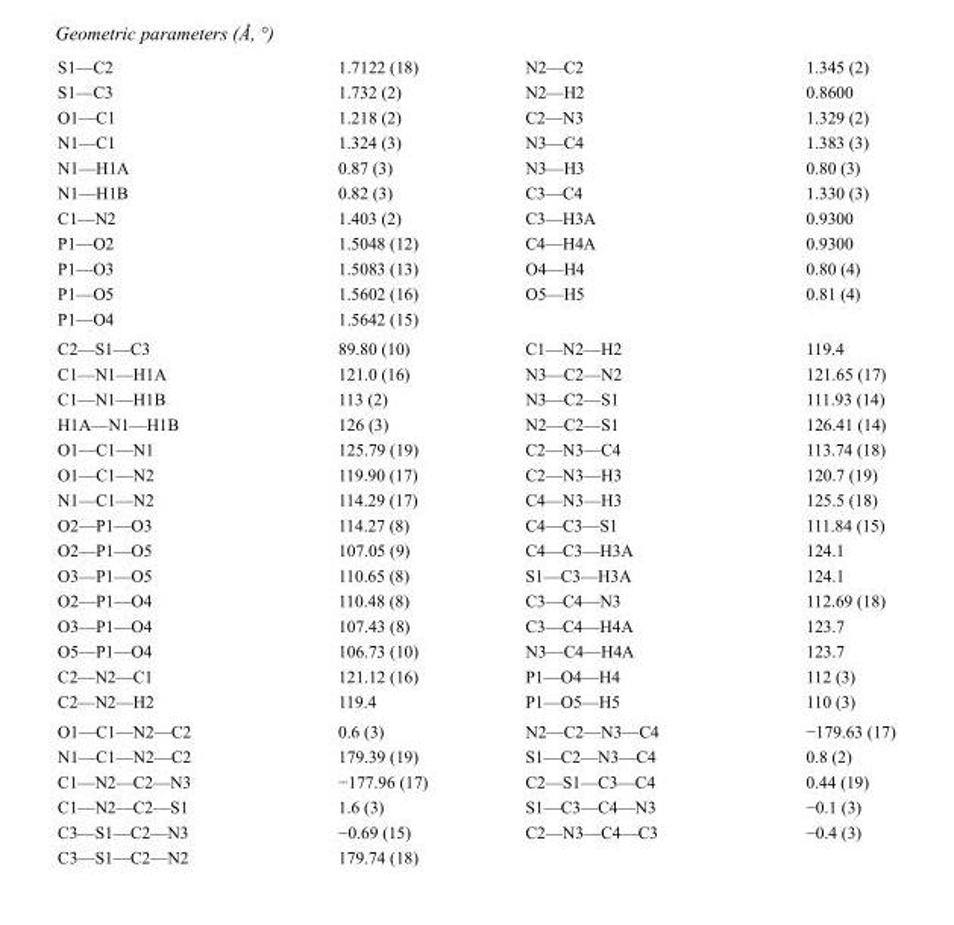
<table><tbody><tr><td>S1—C2</td><td>1.7122 (18)</td><td>N2—C2</td><td>1.345 (2)</td></tr><tr><td>S1—C3</td><td>1.732 (2)</td><td>N2—H2</td><td>0.8600</td></tr><tr><td>O1—C1</td><td>1.218 (2)</td><td>C2—N3</td><td>1.329 (2)</td></tr><tr><td>N1—C1</td><td>1.324 (3)</td><td>N3—C4</td><td>1.383 (3)</td></tr><tr><td>N1—H1A</td><td>0.87 (3)</td><td>N3—H3</td><td>0.80 (3)</td></tr><tr><td>N1—H1B</td><td>0.82 (3)</td><td>C3—C4</td><td>1.330 (3)</td></tr><tr><td>C1—N2</td><td>1.403 (2)</td><td>C3—H3A</td><td>0.9300</td></tr><tr><td>P1—O2</td><td>1.5048 (12)</td><td>C4—H4A</td><td>0.9300</td></tr><tr><td>P1—O3</td><td>1.5083 (13)</td><td>O4—H4</td><td>0.80 (4)</td></tr><tr><td>P1—O5</td><td>1.5602 (16)</td><td>O5—H5</td><td>0.81 (4)</td></tr><tr><td>P1—O4</td><td>1.5642 (15)</td><td></td><td></td></tr><tr><td>C2—S1—C3</td><td>89.80 (10)</td><td>C1—N2—H2</td><td>119.4</td></tr><tr><td>C1—N1—H1A</td><td>121.0 (16)</td><td>N3—C2—N2</td><td>121.65 (17)</td></tr><tr><td>C1—N1—H1B</td><td>113 (2)</td><td>N3—C2—S1</td><td>111.93 (14)</td></tr><tr><td>H1A—N1—H1B</td><td>126 (3)</td><td>N2—C2—S1</td><td>126.41 (14)</td></tr><tr><td>O1—C1—N1</td><td>125.79 (19)</td><td>C2—N3—C4</td><td>113.74 (18)</td></tr><tr><td>O1—C1—N2</td><td>119.90 (17)</td><td>C2—N3—H3</td><td>120.7 (19)</td></tr><tr><td>N1—C1—N2</td><td>114.29 (17)</td><td>C4—N3—H3</td><td>125.5 (18)</td></tr><tr><td>O2—P1—O3</td><td>114.27 (8)</td><td>C4—C3—S1</td><td>111.84 (15)</td></tr><tr><td>O2—P1—O5</td><td>107.05 (9)</td><td>C4—C3—H3A</td><td>124.1</td></tr><tr><td>O3—P1—O5</td><td>110.65 (8)</td><td>S1—C3—H3A</td><td>124.1</td></tr><tr><td>O2—P1—O4</td><td>110.48 (8)</td><td>C3—C4—N3</td><td>112.69 (18)</td></tr><tr><td>O3—P1—O4</td><td>107.43 (8)</td><td>C3—C4—H4A</td><td>123.7</td></tr><tr><td>O5—P1—O4</td><td>106.73 (10)</td><td>N3—C4—H4A</td><td>123.7</td></tr><tr><td>C2—N2—C1</td><td>121.12 (16)</td><td>P1—O4—H4</td><td>112 (3)</td></tr><tr><td>C2—N2—H2</td><td>119.4</td><td>P1—O5—H5</td><td>110 (3)</td></tr><tr><td>O1—C1—N2—C2</td><td>0.6 (3)</td><td>N2—C2—N3—C4</td><td>−179.63 (17)</td></tr><tr><td>N1—C1—N2—C2</td><td>179.39 (19)</td><td>S1—C2—N3—C4</td><td>0.8 (2)</td></tr><tr><td>C1—N2—C2—N3</td><td>−177.96 (17)</td><td>C2—S1—C3—C4</td><td>0.44 (19)</td></tr><tr><td>C1—N2—C2—S1</td><td>1.6 (3)</td><td>S1—C3—C4—N3</td><td>−0.1 (3)</td></tr><tr><td>C3—S1—C2—N3</td><td>−0.69 (15)</td><td>C2—N3—C4—C3</td><td>−0.4 (3)</td></tr><tr><td>C3—S1—C2—N2</td><td>179.74 (18)</td><td></td><td></td></tr></tbody></table>